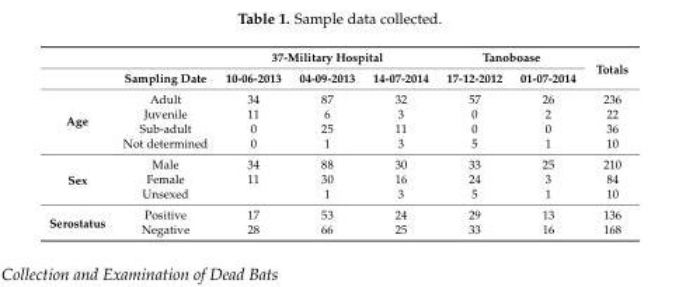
<table><thead><tr><td rowspan="2"></td><td rowspan="2">Sampling Date</td><td colspan="3">37-Military Hospital</td><td colspan="2">Tanoboase</td><td rowspan="2">Totals</td></tr><tr><td>10-06-2013</td><td>04-09-2013</td><td>14-07-2014</td><td>17-12-2012</td><td>01-07-2014</td></tr></thead><tbody><tr><td rowspan="4">Age</td><td>Adult</td><td>34</td><td>87</td><td>32</td><td>57</td><td>26</td><td>236</td></tr><tr><td>Juvenile</td><td>11</td><td>6</td><td>3</td><td>0</td><td>2</td><td>22</td></tr><tr><td>Sub-adult</td><td>0</td><td>25</td><td>11</td><td>0</td><td>0</td><td>36</td></tr><tr><td>Not determined</td><td>0</td><td>1</td><td>3</td><td>5</td><td>1</td><td>10</td></tr><tr><td rowspan="3">Sex</td><td>Male</td><td>34</td><td>88</td><td>30</td><td>33</td><td>25</td><td>210</td></tr><tr><td>Female</td><td>11</td><td>30</td><td>16</td><td>24</td><td>3</td><td>84</td></tr><tr><td>Unsexed</td><td></td><td>1</td><td>3</td><td>5</td><td>1</td><td>10</td></tr><tr><td rowspan="2">Serostatus</td><td>Positive</td><td>17</td><td>53</td><td>24</td><td>29</td><td>13</td><td>136</td></tr><tr><td>Negative</td><td>28</td><td>66</td><td>25</td><td>33</td><td>16</td><td>168</td></tr></tbody></table>